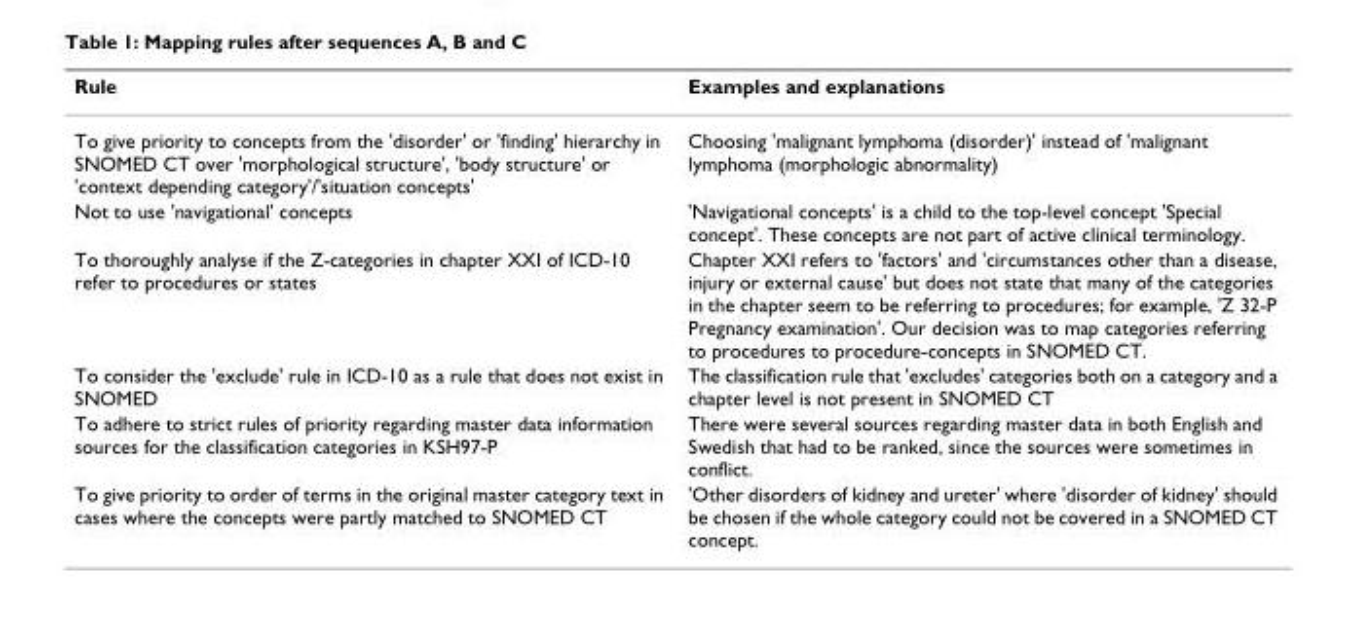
<table><thead><tr><td>Rule</td><td>Examples and explanations</td></tr></thead><tbody><tr><td>To give priority to concepts from the &#x27;disorder&#x27; or &#x27;finding&#x27; hierarchy in SNOMED CT over &#x27;morphological structure&#x27;, &#x27;body structure&#x27; or &#x27;context depending category&#x27;/&#x27;situation concepts&#x27;</td><td>Choosing &#x27;malignant lymphoma (disorder)&#x27; instead of &#x27;malignant lymphoma (morphologic abnormality)</td></tr><tr><td>Not to use &#x27;navigational&#x27; concepts</td><td>&#x27;Navigational concepts&#x27; is a child to the top-level concept &#x27;Special concept&#x27;. These concepts are not part of active clinical terminology.</td></tr><tr><td>To thoroughly analyse if the Z-categories in chapter XXI of ICD-10 refer to procedures or states</td><td>Chapter XXI refers to &#x27;factors&#x27; and &#x27;circumstances other than a disease, injury or external cause&#x27; but does not state that many of the categories in the chapter seem to be referring to procedures; for example, &#x27;Z 32-P Pregnancy examination&#x27;. Our decision was to map categories referring to procedures to procedure-concepts in SNOMED CT.</td></tr><tr><td>To consider the &#x27;exclude&#x27; rule in ICD-10 as a rule that does not exist in SNOMED</td><td>The classification rule that &#x27;excludes&#x27; categories both on a category and a chapter level is not present in SNOMED CT</td></tr><tr><td>To adhere to strict rules of priority regarding master data information sources for the classification categories in KSH97-P</td><td>There were several sources regarding master data in both English and Swedish that had to be ranked, since the sources were sometimes in conflict.</td></tr><tr><td>To give priority to order of terms in the original master category text in cases where the concepts were partly matched to SNOMED CT</td><td>&#x27;Other disorders of kidney and ureter&#x27; where &#x27;disorder of kidney&#x27; should be chosen if the whole category could not be covered in a SNOMED CT concept.</td></tr></tbody></table>